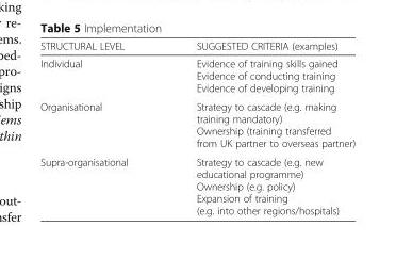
<table><thead><tr><td>STRUCTURAL LEVEL</td><td>SUGGESTED CRITERIA (examples)</td></tr></thead><tbody><tr><td>Individual</td><td>Evidence of training skills gained Evidence of conducting training Evidence of developing training</td></tr><tr><td>Organisational</td><td>Strategy to cascade (e.g. making training mandatory) Ownership (training transferred from UK partner to overseas partner)</td></tr><tr><td>Supra-organisational</td><td>Strategy to cascade (e.g. new educational programme) Ownership (e.g. policy) Expansion of training (e.g. into other regions/hospitals)</td></tr></tbody></table>